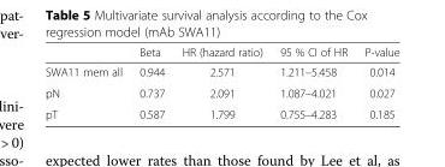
<table><thead><tr><td></td><td>Beta</td><td>HR (hazard ratio)</td><td>95 % CI of HR</td><td>P-value</td></tr></thead><tbody><tr><td>SWA11 mem all</td><td>0.944</td><td>2.571</td><td>1.211–5.458</td><td>0.014</td></tr><tr><td>pN</td><td>0.737</td><td>2.091</td><td>1.087–4.021</td><td>0.027</td></tr><tr><td>pT</td><td>0.587</td><td>1.799</td><td>0.755–4.283</td><td>0.185</td></tr></tbody></table>